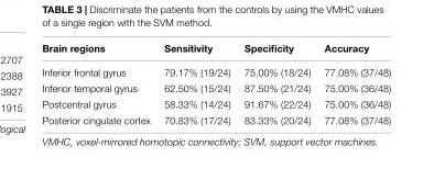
<table><thead><tr><td>Brain regions</td><td>Sensitivity</td><td>Specificity</td><td>Accuracy</td></tr></thead><tbody><tr><td>Inferior frontal gyrus</td><td>79.17% (19/24)</td><td>75.00% (18/24)</td><td>77.08% (37/48)</td></tr><tr><td>Inferior temporal gyrus</td><td>62.50% (15/24)</td><td>87.50% (21/24)</td><td>75.00% (36/48)</td></tr><tr><td>Postcentral gyrus</td><td>58.33% (14/24)</td><td>91.67% (22/24)</td><td>75.00% (36/48)</td></tr><tr><td>Posterior cingulate cortex</td><td>70.83% (17/24)</td><td>83.33% (20/24)</td><td>77.08% (37/48)</td></tr></tbody></table>